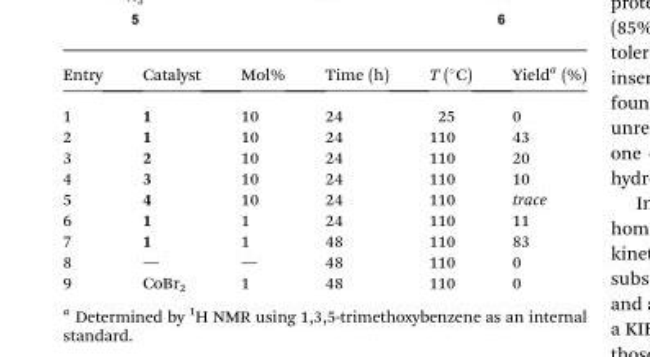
<table><thead><tr><td>Entry</td><td>Catalyst</td><td>Mol%</td><td>Time (h)</td><td>T (°C)</td><td>Yield<sup>a</sup> (%)</td></tr></thead><tbody><tr><td>1</td><td>1</td><td>10</td><td>24</td><td>25</td><td>0</td></tr><tr><td>2</td><td>1</td><td>10</td><td>24</td><td>110</td><td>43</td></tr><tr><td>3</td><td>2</td><td>10</td><td>24</td><td>110</td><td>20</td></tr><tr><td>4</td><td>3</td><td>10</td><td>24</td><td>110</td><td>10</td></tr><tr><td>5</td><td>4</td><td>10</td><td>24</td><td>110</td><td>trace</td></tr><tr><td>6</td><td>1</td><td>1</td><td>24</td><td>110</td><td>11</td></tr><tr><td>7</td><td>1</td><td>1</td><td>48</td><td>110</td><td>83</td></tr><tr><td>8</td><td>—</td><td>—</td><td>48</td><td>110</td><td>0</td></tr><tr><td>9</td><td>CoBr<sub>2</sub></td><td>1</td><td>48</td><td>110</td><td>0</td></tr></tbody></table>